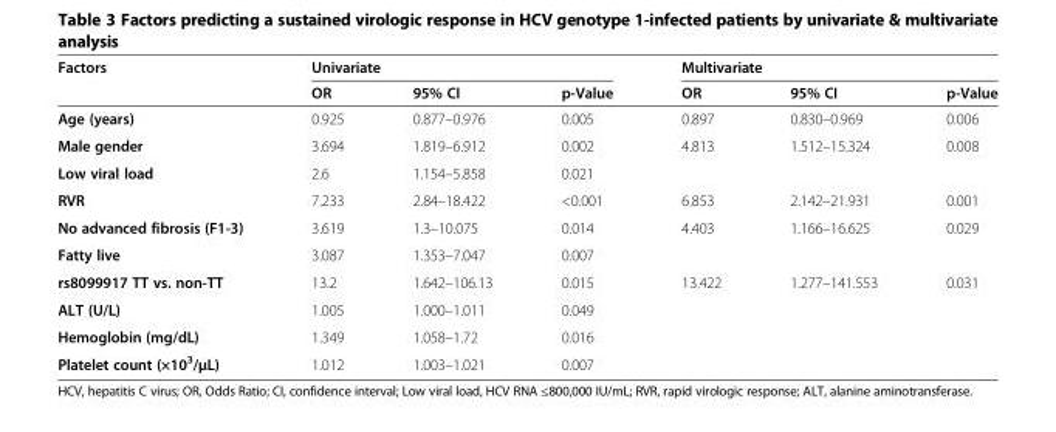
<table><thead><tr><td rowspan="2">Factors</td><td colspan="3">Univariate</td><td colspan="3">Multivariate</td></tr><tr><td>OR</td><td>95% CI</td><td>p-Value</td><td>OR</td><td>95% CI</td><td>p-Value</td></tr></thead><tbody><tr><td>Age (years)</td><td>0.925</td><td>0.877–0.976</td><td>0.005</td><td>0.897</td><td>0.830–0.969</td><td>0.006</td></tr><tr><td>Male gender</td><td>3.694</td><td>1.819–6.912</td><td>0.002</td><td>4.813</td><td>1.512–15.324</td><td>0.008</td></tr><tr><td>Low viral load</td><td>2.6</td><td>1.154–5.858</td><td>0.021</td><td></td><td></td><td></td></tr><tr><td>RVR</td><td>7.233</td><td>2.84–18.422</td><td>&lt;0.001</td><td>6.853</td><td>2.142–21.931</td><td>0.001</td></tr><tr><td>No advanced fibrosis (F1-3)</td><td>3.619</td><td>1.3–10.075</td><td>0.014</td><td>4.403</td><td>1.166–16.625</td><td>0.029</td></tr><tr><td>Fatty live</td><td>3.087</td><td>1.353–7.047</td><td>0.007</td><td></td><td></td><td></td></tr><tr><td>rs8099917 TT vs. non-TT</td><td>13.2</td><td>1.642–106.13</td><td>0.015</td><td>13.422</td><td>1.277–141.553</td><td>0.031</td></tr><tr><td>ALT (U/L)</td><td>1.005</td><td>1.000–1.011</td><td>0.049</td><td></td><td></td><td></td></tr><tr><td>Hemoglobin (mg/dL)</td><td>1.349</td><td>1.058–1.72</td><td>0.016</td><td></td><td></td><td></td></tr><tr><td>Platelet count (×10<sup>3</sup>/μL)</td><td>1.012</td><td>1.003–1.021</td><td>0.007</td><td></td><td></td><td></td></tr></tbody></table>